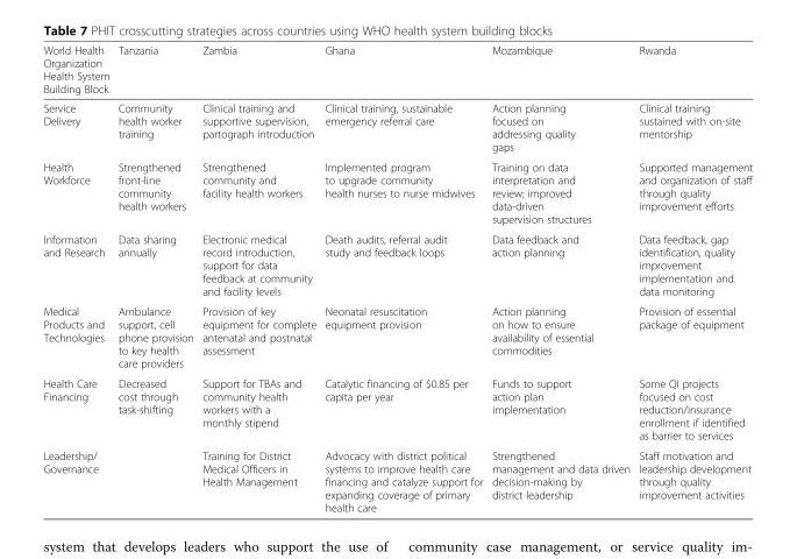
<table><thead><tr><td>World Health Organization Health System Building Block</td><td>Tanzania</td><td>Zambia</td><td>Ghana</td><td>Mozambique</td><td>Rwanda</td></tr></thead><tbody><tr><td>Service Delivery</td><td>Community health worker training</td><td>Clinical training and supportive supervision, partograph introduction</td><td>Clinical training, sustainable emergency referral care</td><td>Action planning focused on addressing quality gaps</td><td>Clinical training sustained with on-site mentorship</td></tr><tr><td>Health Workforce</td><td>Strengthened front-line community health workers</td><td>Strengthened community and facility health workers</td><td>Implemented program to upgrade community health nurses to nurse midwives</td><td>Training on data interpretation and review; improved data-driven supervision structures</td><td>Supported management and organization of staff through quality improvement efforts</td></tr><tr><td>Information and Research</td><td>Data sharing annually</td><td>Electronic medical record introduction, support for data feedback at community and facility levels</td><td>Death audits, referral audit study and feedback loops</td><td>Data feedback and action planning</td><td>Data feedback, gap identification, quality improvement implementation and data monitoring</td></tr><tr><td>Medical Products and Technologies</td><td>Ambulance support, cell phone provision to key health care providers</td><td>Provision of key equipment for complete antenatal and postnatal assessment</td><td>Neonatal resuscitation equipment provision</td><td>Action planning on how to ensure availability of essential commodities</td><td>Provision of essential package of equipment</td></tr><tr><td>Health Care Financing</td><td>Decreased cost through task-shifting</td><td>Support for TBAs and community health workers with a monthly stipend</td><td>Catalytic financing of $0.85 per capita per year</td><td>Funds to support action plan implementation</td><td>Some QI projects focused on cost reduction/insurance enrollment if identified as barrier to services</td></tr><tr><td>Leadership/ Governance</td><td></td><td>Training for District Medical Officers in Health Management</td><td>Advocacy with district political systems to improve health care financing and catalyze support for expanding coverage of primary health care</td><td>Strengthened management and data driven decision-making by district leadership</td><td>Staff motivation and leadership development through quality improvement activities</td></tr></tbody></table>